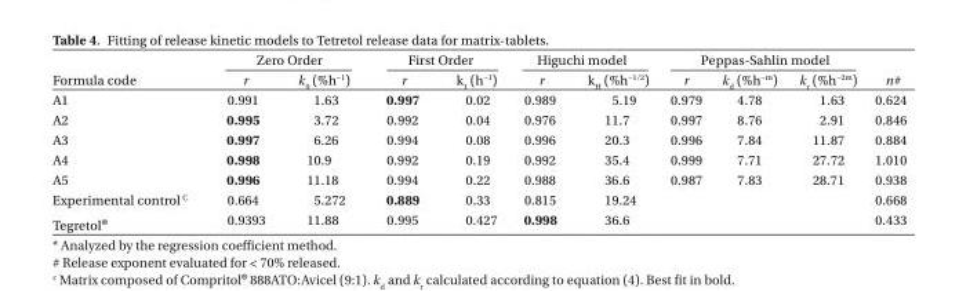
<table><thead><tr><td rowspan="2">Formula code</td><td colspan="2">Zero Order</td><td colspan="2">First Order</td><td colspan="2">Higuchi model</td><td colspan="3">Peppas-Sahlin model</td><td rowspan="2">n#</td></tr><tr><td>r</td><td>k<sub>0</sub> (%h<sup>−1</sup>)</td><td>r</td><td>k<sub>1</sub> (h<sup>−1</sup>)</td><td>r</td><td>k<sub>H</sub> (%h<sup>−1/2</sup>)</td><td>r</td><td>k<sub>d</sub> (%h<sup>−m</sup>)</td><td>k<sub>r</sub> (%h<sup>−2m</sup>)</td></tr></thead><tbody><tr><td>A1</td><td>0.991</td><td>1.63</td><td>0.997</td><td>0.02</td><td>0.989</td><td>5.19</td><td>0.979</td><td>4.78</td><td>1.63</td><td>0.624</td></tr><tr><td>A2</td><td>0.995</td><td>3.72</td><td>0.992</td><td>0.04</td><td>0.976</td><td>11.7</td><td>0.997</td><td>8.76</td><td>2.91</td><td>0.846</td></tr><tr><td>A3</td><td>0.997</td><td>6.26</td><td>0.994</td><td>0.08</td><td>0.996</td><td>20.3</td><td>0.996</td><td>7.84</td><td>11.87</td><td>0.884</td></tr><tr><td>A4</td><td>0.998</td><td>10.9</td><td>0.992</td><td>0.19</td><td>0.992</td><td>35.4</td><td>0.999</td><td>7.71</td><td>27.72</td><td>1.010</td></tr><tr><td>A5</td><td>0.996</td><td>11.18</td><td>0.994</td><td>0.22</td><td>0.988</td><td>36.6</td><td>0.987</td><td>7.83</td><td>28.71</td><td>0.938</td></tr><tr><td>Experimental control C</td><td>0.664</td><td>5.272</td><td>0.889</td><td>0.33</td><td>0.815</td><td>19.24</td><td></td><td></td><td></td><td>0.668</td></tr><tr><td>Tegretol®</td><td>0.9393</td><td>11.88</td><td>0.995</td><td>0.427</td><td>0.998</td><td>36.6</td><td></td><td></td><td></td><td>0.433</td></tr></tbody></table>